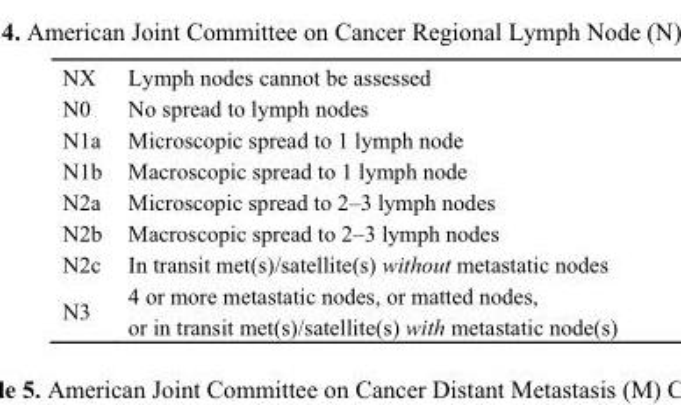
<table><tbody><tr><td>NX</td><td>Lymph nodes cannot be assessed</td></tr><tr><td>N0</td><td>No spread to lymph nodes</td></tr><tr><td>N1a</td><td>Microscopic spread to 1 lymph node</td></tr><tr><td>N1b</td><td>Macroscopic spread to 1 lymph node</td></tr><tr><td>N2a</td><td>Microscopic spread to 2–3 lymph nodes</td></tr><tr><td>N2b</td><td>Macroscopic spread to 2–3 lymph nodes</td></tr><tr><td>N2c</td><td>In transit met(s)/satellite(s) without metastatic nodes</td></tr><tr><td>N3</td><td>4 or more metastatic nodes, or matted nodes, or in transit met(s)/satellite(s) with metastatic node(s)</td></tr></tbody></table>